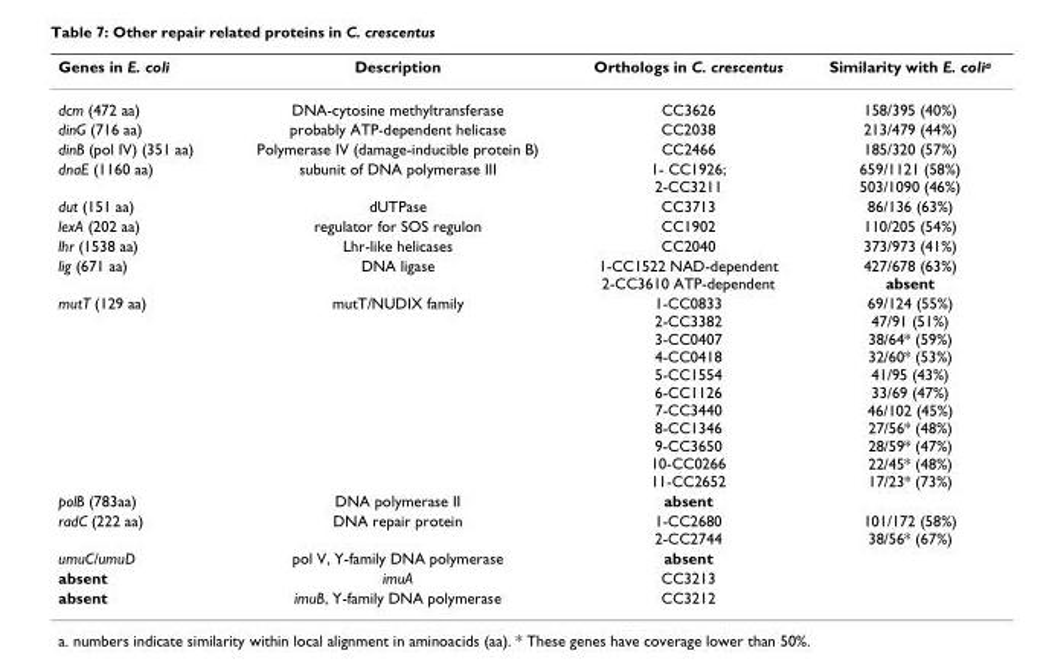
<table><thead><tr><td>Genes in E. coli</td><td>Description</td><td>Orthologs in C. crescentus</td><td>Similarity with E. colia</td></tr></thead><tbody><tr><td>dcm (472 aa)</td><td>DNA-cytosine methyltransferase</td><td>CC3626</td><td>158/395 (40%)</td></tr><tr><td>dinG (716 aa)</td><td>probably ATP-dependent helicase</td><td>CC2038</td><td>213/479 (44%)</td></tr><tr><td>dinB (pol IV) (351 aa)</td><td>Polymerase IV (damage-inducible protein B)</td><td>CC2466</td><td>185/320 (57%)</td></tr><tr><td>dnaE (1160 aa)</td><td>subunit of DNA polymerase III</td><td>1- CC1926; 2-CC3211</td><td>659/1121 (58%) 503/1090 (46%)</td></tr><tr><td>dut (151 aa)</td><td>dUTPase</td><td>CC3713</td><td>86/136 (63%)</td></tr><tr><td>lexA (202 aa)</td><td>regulator for SOS regulon</td><td>CC1902</td><td>110/205 (54%)</td></tr><tr><td>lhr (1538 aa)</td><td>Lhr-like helicases</td><td>CC2040</td><td>373/973 (41%)</td></tr><tr><td>lig (671 aa)</td><td>DNA ligase</td><td>1-CC1522 NAD-dependent 2-CC3610 ATP-dependent</td><td>427/678 (63%) absent</td></tr><tr><td>mutT (129 aa)</td><td>mutT/NUDIX family</td><td>1-CC0833 2-CC3382 3-CC0407 4-CC0418 5-CC1554 6-CC1126 7-CC3440 8-CC1346 9-CC3650 10-CC0266 11-CC2652</td><td>69/124 (55%) 47/91 (51%) 38/64* (59%) 32/60* (53%) 41/95 (43%) 33/69 (47%) 46/102 (45%) 27/56* (48%) 28/59* (47%) 22/45* (48%) 17/23* (73%)</td></tr><tr><td>polB (783aa)</td><td>DNA polymerase II</td><td>absent</td><td></td></tr><tr><td>radC (222 aa)</td><td>DNA repair protein</td><td>1-CC2680 2-CC2744</td><td>101/172 (58%) 38/56* (67%)</td></tr><tr><td>umuC/umuD</td><td>pol V, Y-family DNA polymerase</td><td>absent</td><td></td></tr><tr><td>absent</td><td>imuA</td><td>CC3213</td><td></td></tr><tr><td>absent</td><td>imuB, Y-family DNA polymerase</td><td>CC3212</td><td></td></tr></tbody></table>